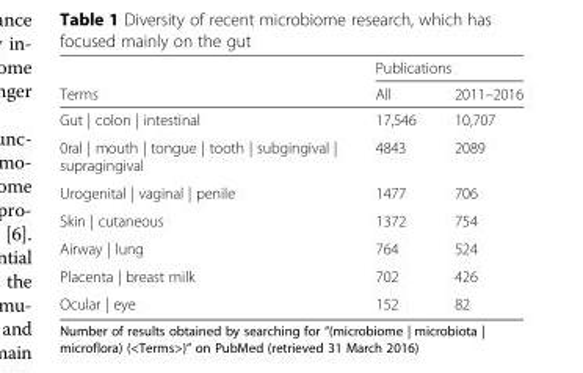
<table><thead><tr><td rowspan="2">Terms</td><td colspan="2">Publications</td></tr><tr><td>All</td><td>2011–2016</td></tr></thead><tbody><tr><td>Gut | colon | intestinal</td><td>17,546</td><td>10,707</td></tr><tr><td>0ral | mouth | tongue | tooth | subgingival | supragingival</td><td>4843</td><td>2089</td></tr><tr><td>Urogenital | vaginal | penile</td><td>1477</td><td>706</td></tr><tr><td>Skin | cutaneous</td><td>1372</td><td>754</td></tr><tr><td>Airway | lung</td><td>764</td><td>524</td></tr><tr><td>Placenta | breast milk</td><td>702</td><td>426</td></tr><tr><td>Ocular | eye</td><td>152</td><td>82</td></tr></tbody></table>